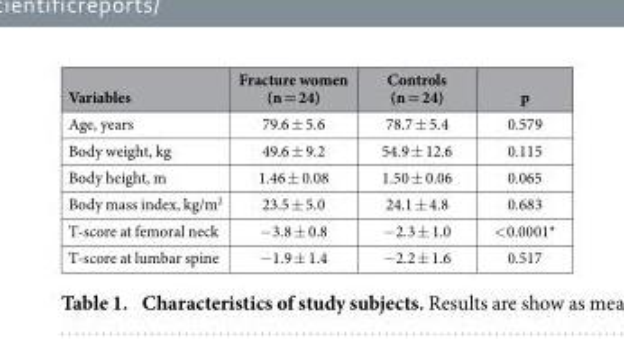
<table><thead><tr><td>Variables</td><td>Fracture women (n = 24)</td><td>Controls (n = 24)</td><td>p</td></tr></thead><tbody><tr><td>Age, years</td><td>79.6 ± 5.6</td><td>78.7 ± 5.4</td><td>0.579</td></tr><tr><td>Body weight, kg</td><td>49.6 ± 9.2</td><td>54.9 ± 12.6</td><td>0.115</td></tr><tr><td>Body height, m</td><td>1.46 ± 0.08</td><td>1.50 ± 0.06</td><td>0.065</td></tr><tr><td>Body mass index, kg/m<sup>2</sup></td><td>23.5 ± 5.0</td><td>24.1 ± 4.8</td><td>0.683</td></tr><tr><td>T-score at femoral neck</td><td>− 3.8 ± 0.8</td><td>− 2.3 ± 1.0</td><td>&lt; 0.0001*</td></tr><tr><td>T-score at lumbar spine</td><td>− 1.9 ± 1.4</td><td>− 2.2 ± 1.6</td><td>0.517</td></tr></tbody></table>